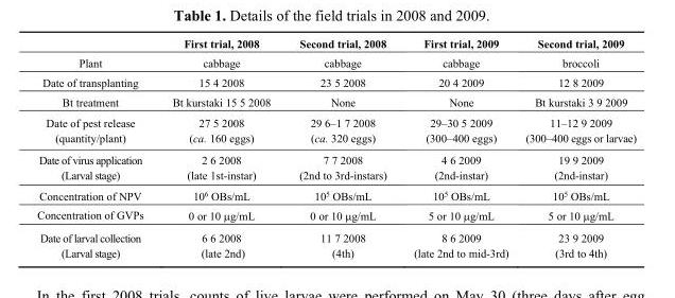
<table><thead><tr><td></td><td>First trial, 2008</td><td>Second trial, 2008</td><td>First trial, 2009</td><td>Second trial, 2009</td></tr></thead><tbody><tr><td>Plant</td><td>cabbage</td><td>cabbage</td><td>cabbage</td><td>broccoli</td></tr><tr><td>Date of transplanting</td><td>15 4 2008</td><td>23 5 2008</td><td>20 4 2009</td><td>12 8 2009</td></tr><tr><td>Bt treatment</td><td>Bt kurstaki 15 5 2008</td><td>None</td><td>None</td><td>Bt kurstaki 3 9 2009</td></tr><tr><td>Date of pest release</td><td>27 5 2008</td><td>29 6–1 7 2008</td><td>29–30 5 2009</td><td>11–12 9 2009</td></tr><tr><td>(quantity/plant)</td><td>(ca. 160 eggs)</td><td>(ca. 320 eggs)</td><td>(300–400 eggs)</td><td>(300–400 eggs or larvae)</td></tr><tr><td>Date of virus application</td><td>2 6 2008</td><td>7 7 2008</td><td>4 6 2009</td><td>19 9 2009</td></tr><tr><td>(Larval stage)</td><td>(late 1st-instar)</td><td>(2nd to 3rd-instars)</td><td>(2nd-instar)</td><td>(2nd-instar)</td></tr><tr><td>Concentration of NPV</td><td>10<sup>6</sup> OBs/mL</td><td>10<sup>5</sup> OBs/mL</td><td>10<sup>5</sup> OBs/mL</td><td>10<sup>5</sup> OBs/mL</td></tr><tr><td>Concentration of GVPs</td><td>0 or 10 μg/mL</td><td>0 or 10 μg/mL</td><td>5 or 10 μg/mL</td><td>5 or 10 μg/mL</td></tr><tr><td>Date of larval collection</td><td>6 6 2008</td><td>11 7 2008</td><td>8 6 2009</td><td>23 9 2009</td></tr><tr><td>(Larval stage)</td><td>(late 2nd)</td><td>(4th)</td><td>(late 2nd to mid-3rd)</td><td>(3rd to 4th)</td></tr></tbody></table>